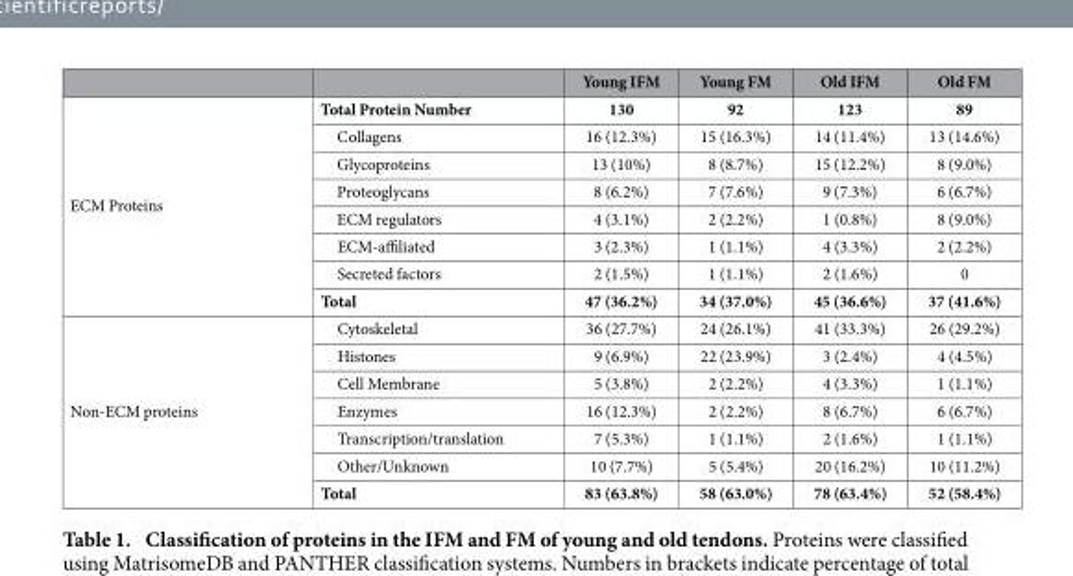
<table><thead><tr><td></td><td></td><td>Young IFM</td><td>Young FM</td><td>Old IFM</td><td>Old FM</td></tr></thead><tbody><tr><td rowspan="8">ECM Proteins</td><td>Total Protein Number</td><td>130</td><td>92</td><td>123</td><td>89</td></tr><tr><td>Collagens</td><td>16 (12.3%)</td><td>15 (16.3%)</td><td>14 (11.4%)</td><td>13 (14.6%)</td></tr><tr><td>Glycoproteins</td><td>13 (10%)</td><td>8 (8.7%)</td><td>15 (12.2%)</td><td>8 (9.0%)</td></tr><tr><td>Proteoglycans</td><td>8 (6.2%)</td><td>7 (7.6%)</td><td>9 (7.3%)</td><td>6 (6.7%)</td></tr><tr><td>ECM regulators</td><td>4 (3.1%)</td><td>2 (2.2%)</td><td>1 (0.8%)</td><td>8 (9.0%)</td></tr><tr><td>ECM-affiliated</td><td>3 (2.3%)</td><td>1 (1.1%)</td><td>4 (3.3%)</td><td>2 (2.2%)</td></tr><tr><td>Secreted factors</td><td>2 (1.5%)</td><td>1 (1.1%)</td><td>2 (1.6%)</td><td>0</td></tr><tr><td>Total</td><td>47 (36.2%)</td><td>34 (37.0%)</td><td>45 (36.6%)</td><td>37 (41.6%)</td></tr><tr><td rowspan="7">Non-ECM proteins</td><td>Cytoskeletal</td><td>36 (27.7%)</td><td>24 (26.1%)</td><td>41 (33.3%)</td><td>26 (29.2%)</td></tr><tr><td>Histones</td><td>9 (6.9%)</td><td>22 (23.9%)</td><td>3 (2.4%)</td><td>4 (4.5%)</td></tr><tr><td>Cell Membrane</td><td>5 (3.8%)</td><td>2 (2.2%)</td><td>4 (3.3%)</td><td>1 (1.1%)</td></tr><tr><td>Enzymes</td><td>16 (12.3%)</td><td>2 (2.2%)</td><td>8 (6.7%)</td><td>6 (6.7%)</td></tr><tr><td>Transcription/translation</td><td>7 (5.3%)</td><td>1 (1.1%)</td><td>2 (1.6%)</td><td>1 (1.1%)</td></tr><tr><td>Other/Unknown</td><td>10 (7.7%)</td><td>5 (5.4%)</td><td>20 (16.2%)</td><td>10 (11.2%)</td></tr><tr><td>Total</td><td>83 (63.8%)</td><td>58 (63.0%)</td><td>78 (63.4%)</td><td>52 (58.4%)</td></tr></tbody></table>